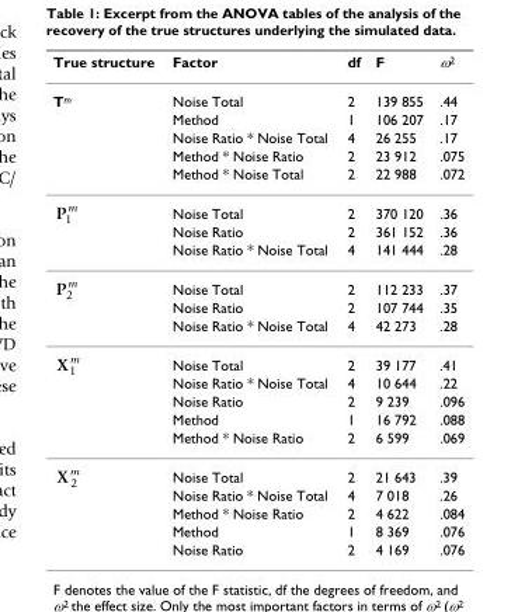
<table><thead><tr><td>True structure</td><td>Factor</td><td>df</td><td>F</td><td>ω<sup>2</sup></td></tr></thead><tbody><tr><td rowspan="21">Tm P1 m P2 m X1 m X 2 m</td><td>Noise Total</td><td>2</td><td>139 855</td><td>.44</td></tr><tr><td>Method</td><td>1</td><td>106 207</td><td>.17</td></tr><tr><td>Noise Ratio * Noise Total</td><td>4</td><td>26 255</td><td>.17</td></tr><tr><td>Method * Noise Ratio</td><td>2</td><td>23 912</td><td>.075</td></tr><tr><td>Method * Noise Total</td><td>2</td><td>22 988</td><td>.072</td></tr><tr><td>Noise Total</td><td>2</td><td>370 120</td><td>.36</td></tr><tr><td>Noise Ratio</td><td>2</td><td>361 152</td><td>.36</td></tr><tr><td>Noise Ratio * Noise Total</td><td>4</td><td>141 444</td><td>.28</td></tr><tr><td>Noise Total</td><td>2</td><td>112 233</td><td>.37</td></tr><tr><td>Noise Ratio</td><td>2</td><td>107 744</td><td>.35</td></tr><tr><td>Noise Ratio * Noise Total</td><td>4</td><td>42 273</td><td>.28</td></tr><tr><td>Noise Total</td><td>2</td><td>39 177</td><td>.41</td></tr><tr><td>Noise Ratio * Noise Total</td><td>4</td><td>10 644</td><td>.22</td></tr><tr><td>Noise Ratio</td><td>2</td><td>9 239</td><td>.096</td></tr><tr><td>Method</td><td>1</td><td>16 792</td><td>.088</td></tr><tr><td>Method * Noise Ratio</td><td>2</td><td>6 599</td><td>.069</td></tr><tr><td>Noise Total</td><td>2</td><td>21 643</td><td>.39</td></tr><tr><td>Noise Ratio * Noise Total</td><td>4</td><td>7 018</td><td>.26</td></tr><tr><td>Method * Noise Ratio</td><td>2</td><td>4 622</td><td>.084</td></tr><tr><td>Method</td><td>1</td><td>8 369</td><td>.076</td></tr><tr><td>Noise Ratio</td><td>2</td><td>4 169</td><td>.076</td></tr></tbody></table>